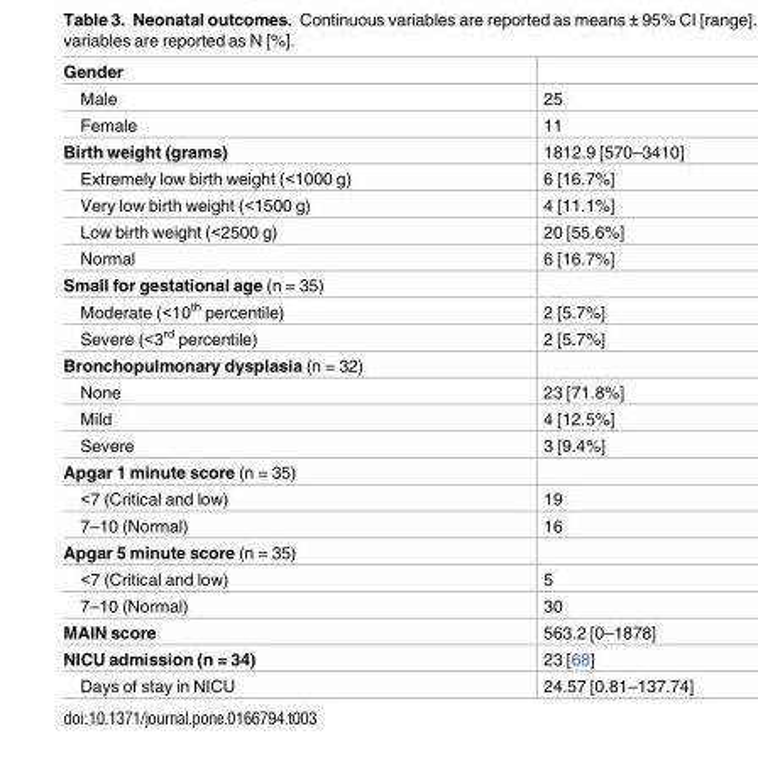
<table><tbody><tr><td colspan="2">Gender</td></tr><tr><td>Male</td><td>25</td></tr><tr><td>Female</td><td>11</td></tr><tr><td>Birth weight (grams)</td><td>1812.9 [570–3410]</td></tr><tr><td>Extremely low birth weight (&lt;1000 g)</td><td>6 [16.7%]</td></tr><tr><td>Very low birth weight (&lt;1500 g)</td><td>4 [11.1%]</td></tr><tr><td>Low birth weight (&lt;2500 g)</td><td>20 [55.6%]</td></tr><tr><td>Normal</td><td>6 [16.7%]</td></tr><tr><td colspan="2">Small for gestational age (n = 35)</td></tr><tr><td>Moderate (&lt;10<sup>th</sup> percentile)</td><td>2 [5.7%]</td></tr><tr><td>Severe (&lt;3<sup>rd</sup> percentile)</td><td>2 [5.7%]</td></tr><tr><td colspan="2">Bronchopulmonary dysplasia (n = 32)</td></tr><tr><td>None</td><td>23 [71.8%]</td></tr><tr><td>Mild</td><td>4 [12.5%]</td></tr><tr><td>Severe</td><td>3 [9.4%]</td></tr><tr><td colspan="2">Apgar 1 minute score (n = 35)</td></tr><tr><td>&lt;7 (Critical and low)</td><td>19</td></tr><tr><td>7–10 (Normal)</td><td>16</td></tr><tr><td colspan="2">Apgar 5 minute score (n = 35)</td></tr><tr><td>&lt;7 (Critical and low)</td><td>5</td></tr><tr><td>7–10 (Normal)</td><td>30</td></tr><tr><td>MAIN score</td><td>563.2 [0–1878]</td></tr><tr><td>NICU admission (n = 34)</td><td>23 [68]</td></tr><tr><td>Days of stay in NICU</td><td>24.57 [0.81–137.74]</td></tr></tbody></table>